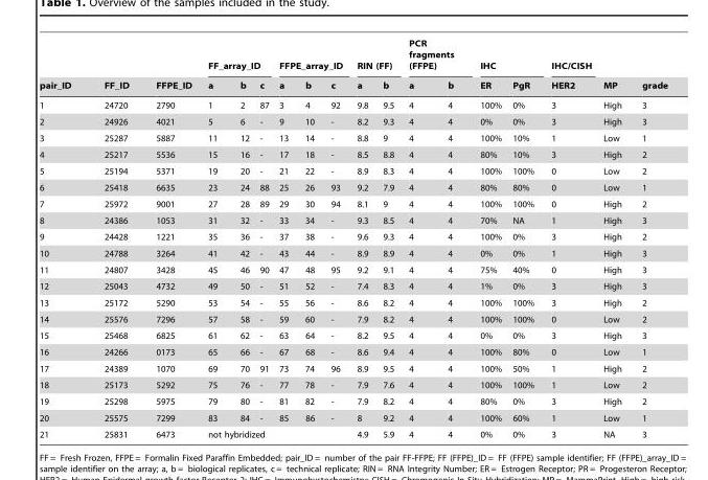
<table><thead><tr><td rowspan="2">pair_ID</td><td rowspan="2">FF_ID</td><td rowspan="2">FFPE_ID</td><td colspan="3">FF_array_ID</td><td colspan="3">FFPE_array_ID</td><td colspan="2">RIN (FF)</td><td colspan="2">PCR fragments (FFPE)</td><td colspan="2">IHC</td><td rowspan="2">IHC/CISH HER2</td><td rowspan="2">MP</td><td rowspan="2">grade</td></tr><tr><td>a</td><td>b</td><td>c</td><td>a</td><td>b</td><td>c</td><td>a</td><td>b</td><td>a</td><td>b</td><td>ER</td><td>PgR</td></tr></thead><tbody><tr><td>1</td><td>24720</td><td>2790</td><td>1</td><td>2</td><td>87</td><td>3</td><td>4</td><td>92</td><td>9.8</td><td>9.5</td><td>4</td><td>4</td><td>100%</td><td>0%</td><td>3</td><td>High</td><td>3</td></tr><tr><td>2</td><td>24926</td><td>4021</td><td>5</td><td>6</td><td>-</td><td>9</td><td>10</td><td>-</td><td>8.2</td><td>9.3</td><td>4</td><td>4</td><td>0%</td><td>0%</td><td>3</td><td>High</td><td>3</td></tr><tr><td>3</td><td>25287</td><td>5887</td><td>11</td><td>12</td><td>-</td><td>13</td><td>14</td><td>-</td><td>8.8</td><td>9</td><td>4</td><td>4</td><td>100%</td><td>10%</td><td>1</td><td>Low</td><td>1</td></tr><tr><td>4</td><td>25217</td><td>5536</td><td>15</td><td>16</td><td>-</td><td>17</td><td>18</td><td>-</td><td>8.5</td><td>8.8</td><td>4</td><td>4</td><td>80%</td><td>10%</td><td>3</td><td>High</td><td>2</td></tr><tr><td>5</td><td>25194</td><td>5371</td><td>19</td><td>20</td><td>-</td><td>21</td><td>22</td><td>-</td><td>8.9</td><td>8.3</td><td>4</td><td>4</td><td>100%</td><td>100%</td><td>0</td><td>Low</td><td>2</td></tr><tr><td>6</td><td>25418</td><td>6635</td><td>23</td><td>24</td><td>88</td><td>25</td><td>26</td><td>93</td><td>9.2</td><td>7.9</td><td>4</td><td>4</td><td>80%</td><td>80%</td><td>0</td><td>Low</td><td>1</td></tr><tr><td>7</td><td>25972</td><td>9001</td><td>27</td><td>28</td><td>89</td><td>29</td><td>30</td><td>94</td><td>8.1</td><td>9</td><td>4</td><td>4</td><td>100%</td><td>100%</td><td>0</td><td>High</td><td>2</td></tr><tr><td>8</td><td>24386</td><td>1053</td><td>31</td><td>32</td><td>-</td><td>33</td><td>34</td><td>-</td><td>9.3</td><td>8.5</td><td>4</td><td>4</td><td>70%</td><td>NA</td><td>1</td><td>High</td><td>3</td></tr><tr><td>9</td><td>24428</td><td>1221</td><td>35</td><td>36</td><td>-</td><td>37</td><td>38</td><td>-</td><td>9.6</td><td>9.3</td><td>4</td><td>4</td><td>100%</td><td>0%</td><td>3</td><td>High</td><td>2</td></tr><tr><td>10</td><td>24788</td><td>3264</td><td>41</td><td>42</td><td>-</td><td>43</td><td>44</td><td>-</td><td>8.9</td><td>8.9</td><td>4</td><td>4</td><td>0%</td><td>0%</td><td>1</td><td>High</td><td>3</td></tr><tr><td>11</td><td>24807</td><td>3428</td><td>45</td><td>46</td><td>90</td><td>47</td><td>48</td><td>95</td><td>9.2</td><td>9.1</td><td>4</td><td>4</td><td>75%</td><td>40%</td><td>0</td><td>High</td><td>3</td></tr><tr><td>12</td><td>25043</td><td>4732</td><td>49</td><td>50</td><td>-</td><td>51</td><td>52</td><td>-</td><td>7.4</td><td>8.3</td><td>4</td><td>4</td><td>1%</td><td>0%</td><td>3</td><td>High</td><td>3</td></tr><tr><td>13</td><td>25172</td><td>5290</td><td>53</td><td>54</td><td>-</td><td>55</td><td>56</td><td>-</td><td>8.6</td><td>8.2</td><td>4</td><td>4</td><td>100%</td><td>100%</td><td>3</td><td>High</td><td>2</td></tr><tr><td>14</td><td>25576</td><td>7296</td><td>57</td><td>58</td><td>-</td><td>59</td><td>60</td><td>-</td><td>7.9</td><td>8.2</td><td>4</td><td>4</td><td>100%</td><td>100%</td><td>0</td><td>Low</td><td>2</td></tr><tr><td>15</td><td>25468</td><td>6825</td><td>61</td><td>62</td><td>-</td><td>63</td><td>64</td><td>-</td><td>8.2</td><td>9.5</td><td>4</td><td>4</td><td>0%</td><td>0%</td><td>3</td><td>High</td><td>3</td></tr><tr><td>16</td><td>24266</td><td>0173</td><td>65</td><td>66</td><td>-</td><td>67</td><td>68</td><td>-</td><td>8.6</td><td>9.4</td><td>4</td><td>4</td><td>100%</td><td>80%</td><td>0</td><td>Low</td><td>1</td></tr><tr><td>17</td><td>24389</td><td>1070</td><td>69</td><td>70</td><td>91</td><td>73</td><td>74</td><td>96</td><td>8.9</td><td>9.5</td><td>4</td><td>4</td><td>100%</td><td>50%</td><td>1</td><td>High</td><td>2</td></tr><tr><td>18</td><td>25173</td><td>5292</td><td>75</td><td>76</td><td>-</td><td>77</td><td>78</td><td>-</td><td>7.9</td><td>7.6</td><td>4</td><td>4</td><td>100%</td><td>100%</td><td>1</td><td>Low</td><td>2</td></tr><tr><td>19</td><td>25298</td><td>5975</td><td>79</td><td>80</td><td>-</td><td>81</td><td>82</td><td>-</td><td>7.9</td><td>8.2</td><td>4</td><td>4</td><td>80%</td><td>0%</td><td>3</td><td>High</td><td>2</td></tr><tr><td>20</td><td>25575</td><td>7299</td><td>83</td><td>84</td><td>-</td><td>85</td><td>86</td><td>-</td><td>8</td><td>9.2</td><td>4</td><td>4</td><td>100%</td><td>60%</td><td>1</td><td>Low</td><td>1</td></tr><tr><td>21</td><td>25831</td><td>6473</td><td colspan="6">not hybridized</td><td>4.9</td><td>5.9</td><td>4</td><td>4</td><td>0%</td><td>0%</td><td>3</td><td>NA</td><td>3</td></tr></tbody></table>